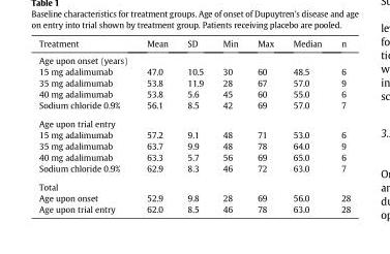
<table><thead><tr><td>Treatment</td><td>Mean</td><td>SD</td><td>Min</td><td>Max</td><td>Median</td><td>n</td></tr></thead><tbody><tr><td colspan="7">Age upon onset (years)</td></tr><tr><td>15 mg adalimumab</td><td>47.0</td><td>10.5</td><td>30</td><td>60</td><td>48.5</td><td>6</td></tr><tr><td>35 mg adalimumab</td><td>53.8</td><td>11.9</td><td>28</td><td>67</td><td>57.0</td><td>9</td></tr><tr><td>40 mg adalimumab</td><td>53.8</td><td>5.6</td><td>45</td><td>60</td><td>55.0</td><td>6</td></tr><tr><td>Sodium chloride 0.9%</td><td>56.1</td><td>8.5</td><td>42</td><td>69</td><td>57.0</td><td>7</td></tr><tr><td colspan="7">Age upon trial entry</td></tr><tr><td>15 mg adalimumab</td><td>57.2</td><td>9.1</td><td>48</td><td>71</td><td>53.0</td><td>6</td></tr><tr><td>35 mg adalimumab</td><td>63.7</td><td>9.9</td><td>48</td><td>78</td><td>64.0</td><td>9</td></tr><tr><td>40 mg adalimumab</td><td>63.3</td><td>5.7</td><td>56</td><td>69</td><td>65.0</td><td>6</td></tr><tr><td>Sodium chloride 0.9%</td><td>62.9</td><td>8.3</td><td>46</td><td>72</td><td>63.0</td><td>7</td></tr><tr><td colspan="7">Total</td></tr><tr><td>Age upon onset</td><td>52.9</td><td>9.8</td><td>28</td><td>69</td><td>56.0</td><td>28</td></tr><tr><td>Age upon trial entry</td><td>62.0</td><td>8.5</td><td>46</td><td>78</td><td>63.0</td><td>28</td></tr></tbody></table>